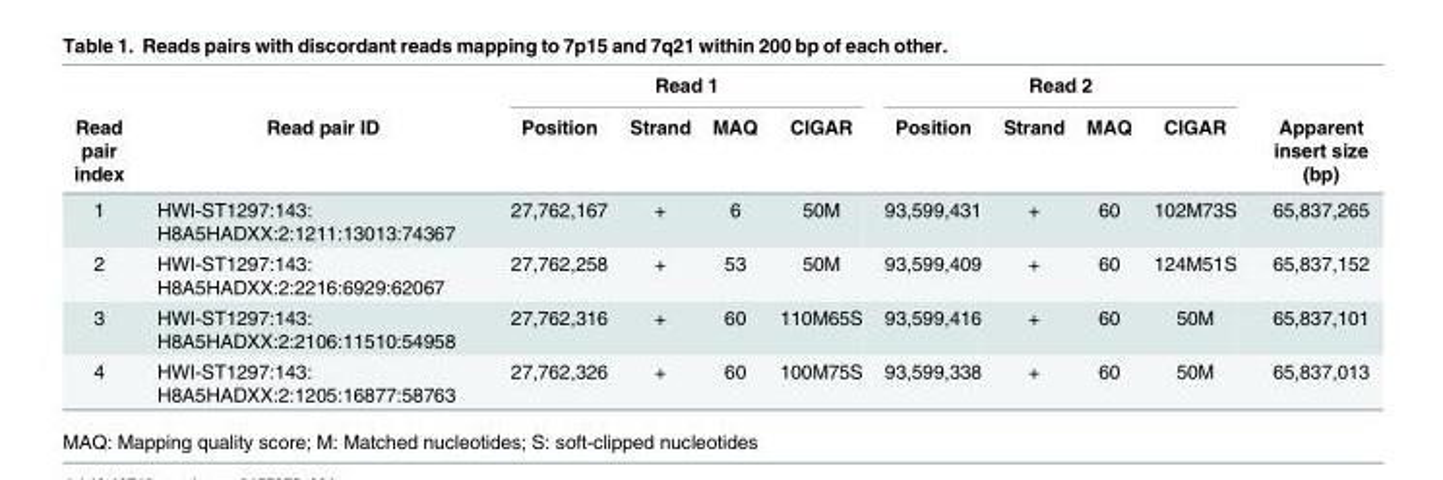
<table><thead><tr><td rowspan="2">Read pair index</td><td rowspan="2">Read pair ID</td><td colspan="4">Read 1</td><td colspan="4">Read 2</td><td rowspan="2">Apparent insert size (bp)</td></tr><tr><td>Position</td><td>Strand</td><td>MAQ</td><td>CIGAR</td><td>Position</td><td>Strand</td><td>MAQ</td><td>CIGAR</td></tr></thead><tbody><tr><td>1</td><td>HWI-ST1297:143: H8A5HADXX:2:1211:13013:74367</td><td>27,762,167</td><td>+</td><td>6</td><td>50M</td><td>93,599,431</td><td>+</td><td>60</td><td>102M73S</td><td>65,837,265</td></tr><tr><td>2</td><td>HWI-ST1297:143: H8A5HADXX:2:2216:6929:62067</td><td>27,762,258</td><td>+</td><td>53</td><td>50M</td><td>93,599,409</td><td>+</td><td>60</td><td>124M51S</td><td>65,837,152</td></tr><tr><td>3</td><td>HWI-ST1297:143: H8A5HADXX:2:2106:11510:54958</td><td>27,762,316</td><td>+</td><td>60</td><td>110M65S</td><td>93,599,416</td><td>+</td><td>60</td><td>50M</td><td>65,837,101</td></tr><tr><td>4</td><td>HWI-ST1297:143: H8A5HADXX:2:1205:16877:58763</td><td>27,762,326</td><td>+</td><td>60</td><td>100M75S</td><td>93,599,338</td><td>+</td><td>60</td><td>50M</td><td>65,837,013</td></tr></tbody></table>